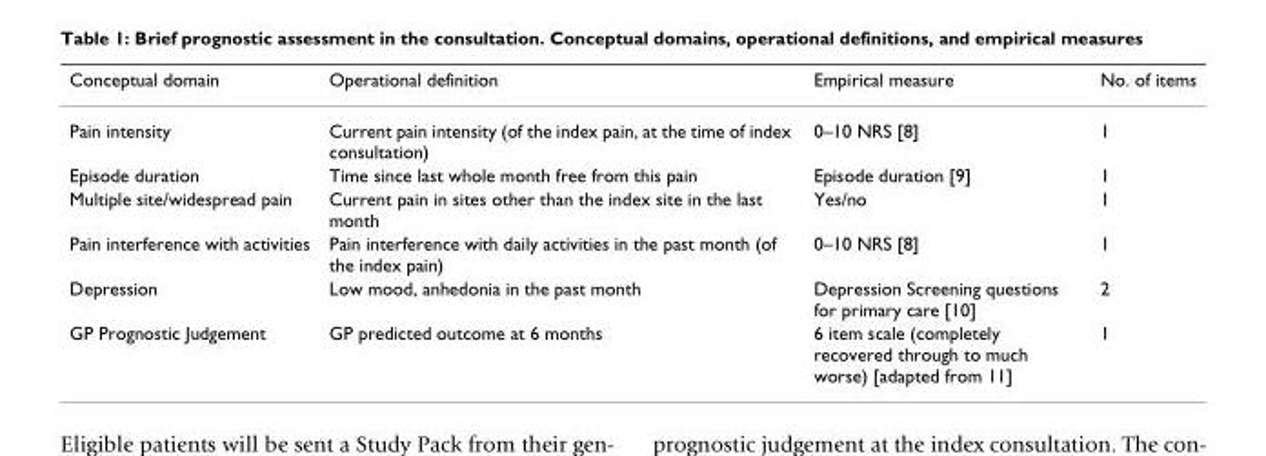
<table><thead><tr><td>Conceptual domain</td><td>Operational definition</td><td>Empirical measure</td><td>No. of items</td></tr></thead><tbody><tr><td>Pain intensity</td><td>Current pain intensity (of the index pain, at the time of index consultation)</td><td>0–10 NRS [8]</td><td>1</td></tr><tr><td>Episode duration</td><td>Time since last whole month free from this pain</td><td>Episode duration [9]</td><td>1</td></tr><tr><td>Multiple site/widespread pain</td><td>Current pain in sites other than the index site in the last month</td><td>Yes/no</td><td>1</td></tr><tr><td>Pain interference with activities</td><td>Pain interference with daily activities in the past month (of the index pain)</td><td>0–10 NRS [8]</td><td>1</td></tr><tr><td>Depression</td><td>Low mood, anhedonia in the past month</td><td>Depression Screening questions for primary care [10]</td><td>2</td></tr><tr><td>GP Prognostic Judgement</td><td>GP predicted outcome at 6 months</td><td>6 item scale (completely recovered through to much worse) [adapted from 11]</td><td>1</td></tr></tbody></table>